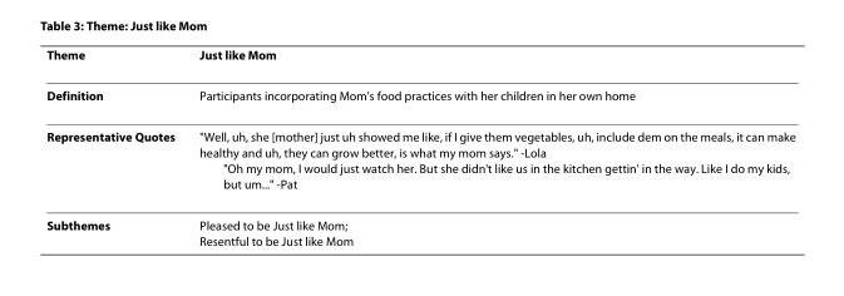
<table><thead><tr><td>Theme</td><td>Just like Mom</td></tr></thead><tbody><tr><td>Definition</td><td>Participants incorporating Mom&#x27;s food practices with her children in her own home</td></tr><tr><td>Representative Quotes</td><td>&quot;Well, uh, she [mother] just uh showed me like, if I give them vegetables, uh, include dem on the meals, it can make healthy and uh, they can grow better, is what my mom says.&quot; -Lola &quot;Oh my mom, I would just watch her. But she didn&#x27;t like us in the kitchen gettin&#x27; in the way. Like I do my kids, but um...&quot; -Pat</td></tr><tr><td>Subthemes</td><td>Pleased to be Just like Mom; Resentful to be Just like Mom</td></tr></tbody></table>